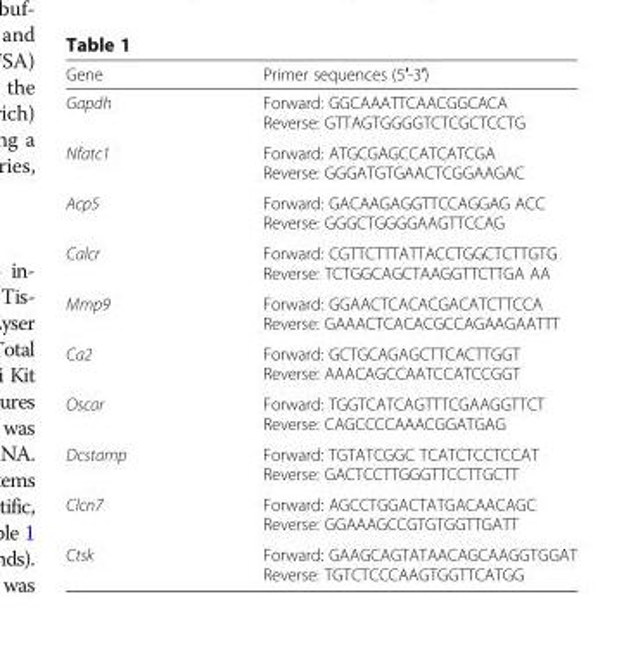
<table><thead><tr><td>Gene</td><td>Primer sequences (5′-3′)</td></tr></thead><tbody><tr><td>Gapdh</td><td>Forward: GGCAAATTCAACGGCACA Reverse: GTTAGTGGGGTCTCGCTCCTG</td></tr><tr><td>Nfatc1</td><td>Forward: ATGCGAGCCATCATCGA Reverse: GGGATGTGAACTCGGAAGAC</td></tr><tr><td>Acp5</td><td>Forward: GACAAGAGGTTCCAGGAG ACC Reverse: GGGCTGGGGAAGTTCCAG</td></tr><tr><td>Calcr</td><td>Forward: CGTTCTTTATTACCTGGCTCTTGTG Reverse: TCTGGCAGCTAAGGTTCTTGA AA</td></tr><tr><td>Mmp9</td><td>Forward: GGAACTCACACGACATCTTCCA Reverse: GAAACTCACACGCCAGAAGAATTT</td></tr><tr><td>Ca2</td><td>Forward: GCTGCAGAGCTTCACTTGGT Reverse: AAACAGCCAATCCATCCGGT</td></tr><tr><td>Oscar</td><td>Forward: TGGTCATCAGTTTCGAAGGTTCT Reverse: CAGCCCCAAACGGATGAG</td></tr><tr><td>Dcstamp</td><td>Forward: TGTATCGGC TCATCTCCTCCAT Reverse: GACTCCTTGGGTTCCTTGCTT</td></tr><tr><td>Clcn7</td><td>Forward: AGCCTGGACTATGACAACAGC Reverse: GGAAAGCCGTGTGGTTGATT</td></tr><tr><td>Ctsk</td><td>Forward: GAAGCAGTATAACAGCAAGGTGGAT Reverse: TGTCTCCCAAGTGGTTCATGG</td></tr></tbody></table>